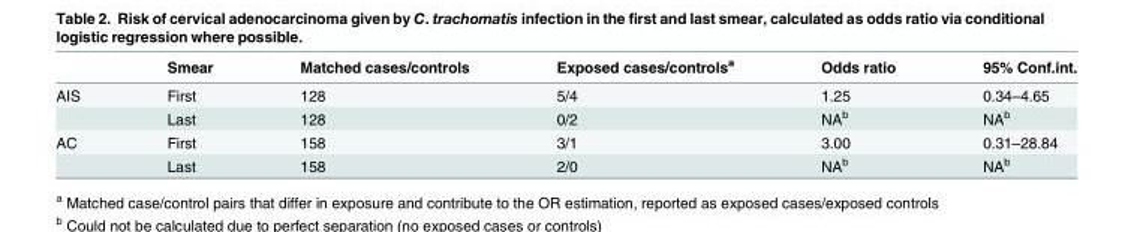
<table><thead><tr><td></td><td>Smear</td><td>Matched cases/controls</td><td>Exposed cases/controls<sup>a</sup></td><td>Odds ratio</td><td>95% Conf.int.</td></tr></thead><tbody><tr><td rowspan="2">AIS</td><td>First</td><td>128</td><td>5/4</td><td>1.25</td><td>0.34–4.65</td></tr><tr><td>Last</td><td>128</td><td>0/2</td><td>NA<sup>b</sup></td><td>NA<sup>b</sup></td></tr><tr><td rowspan="2">AC</td><td>First</td><td>158</td><td>3/1</td><td>3.00</td><td>0.31–28.84</td></tr><tr><td>Last</td><td>158</td><td>2/0</td><td>NA<sup>b</sup></td><td>NA<sup>b</sup></td></tr></tbody></table>